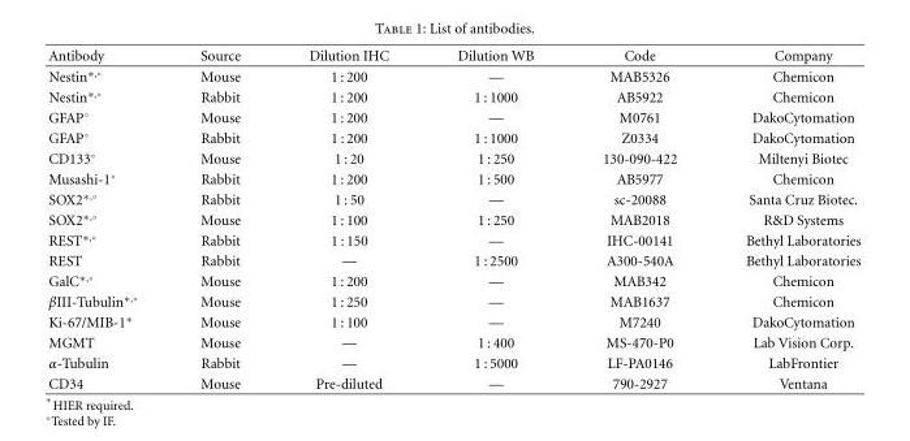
<table><thead><tr><td>Antibody</td><td>Source</td><td>Dilution IHC</td><td>Dilution WB</td><td>Code</td><td>Company</td></tr></thead><tbody><tr><td>Nestin∗,◦</td><td>Mouse</td><td>1 : 200</td><td>—</td><td>MAB5326</td><td>Chemicon</td></tr><tr><td>Nestin∗,◦</td><td>Rabbit</td><td>1 : 200</td><td>1 : 1000</td><td>AB5922</td><td>Chemicon</td></tr><tr><td>GFAP◦</td><td>Mouse</td><td>1 : 200</td><td>—</td><td>M0761</td><td>DakoCytomation</td></tr><tr><td>GFAP◦</td><td>Rabbit</td><td>1 : 200</td><td>1 : 1000</td><td>Z0334</td><td>DakoCytomation</td></tr><tr><td>CD133◦</td><td>Mouse</td><td>1 : 20</td><td>1 : 250</td><td>130-090-422</td><td>Miltenyi Biotec</td></tr><tr><td>Musashi-1◦</td><td>Rabbit</td><td>1 : 200</td><td>1 : 500</td><td>AB5977</td><td>Chemicon</td></tr><tr><td>SOX2∗,◦</td><td>Rabbit</td><td>1 : 50</td><td>—</td><td>sc-20088</td><td>Santa Cruz Biotec.</td></tr><tr><td>SOX2∗,◦</td><td>Mouse</td><td>1 : 100</td><td>1 : 250</td><td>MAB2018</td><td>R&amp;D Systems</td></tr><tr><td>REST∗,◦</td><td>Rabbit</td><td>1 : 150</td><td>—</td><td>IHC-00141</td><td>Bethyl Laboratories</td></tr><tr><td>REST</td><td>Rabbit</td><td>—</td><td>1 : 2500</td><td>A300-540A</td><td>Bethyl Laboratories</td></tr><tr><td>GalC∗,◦</td><td>Mouse</td><td>1 : 200</td><td>—</td><td>MAB342</td><td>Chemicon</td></tr><tr><td>βIII-Tubulin∗,◦</td><td>Mouse</td><td>1 : 250</td><td>—</td><td>MAB1637</td><td>Chemicon</td></tr><tr><td>Ki-67/MIB-1∗</td><td>Mouse</td><td>1 : 100</td><td>—</td><td>M7240</td><td>DakoCytomation</td></tr><tr><td>MGMT</td><td>Mouse</td><td>—</td><td>1 : 400</td><td>MS-470-P0</td><td>Lab Vision Corp.</td></tr><tr><td>α-Tubulin</td><td>Rabbit</td><td>—</td><td>1 : 5000</td><td>LF-PA0146</td><td>LabFrontier</td></tr><tr><td>CD34</td><td>Mouse</td><td>Pre-diluted</td><td>—</td><td>790-2927</td><td>Ventana</td></tr></tbody></table>